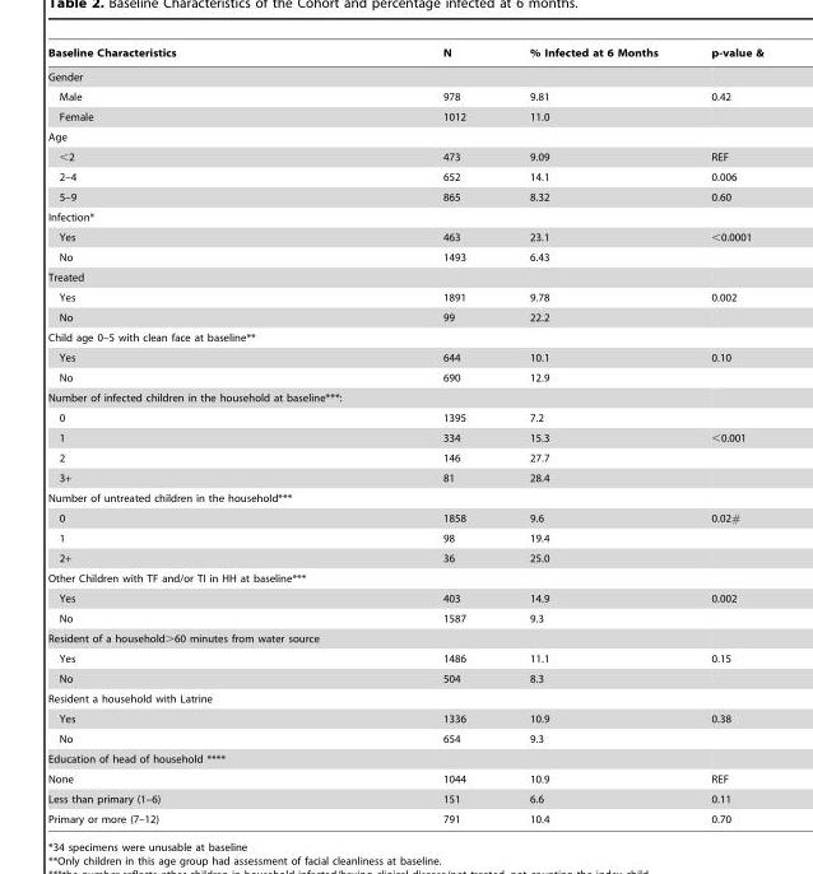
<table><thead><tr><td>Baseline Characteristics</td><td>N</td><td>% Infected at 6 Months</td><td>p-value &amp;</td></tr></thead><tbody><tr><td colspan="4">Gender</td></tr><tr><td>Male</td><td>978</td><td>9.81</td><td>0.42</td></tr><tr><td>Female</td><td>1012</td><td>11.0</td><td></td></tr><tr><td colspan="4">Age</td></tr><tr><td>&lt;2</td><td>473</td><td>9.09</td><td>REF</td></tr><tr><td>2–4</td><td>652</td><td>14.1</td><td>0.006</td></tr><tr><td>5–9</td><td>865</td><td>8.32</td><td>0.60</td></tr><tr><td colspan="4">Infection*</td></tr><tr><td>Yes</td><td>463</td><td>23.1</td><td>&lt;0.0001</td></tr><tr><td>No</td><td>1493</td><td>6.43</td><td></td></tr><tr><td colspan="4">Treated</td></tr><tr><td>Yes</td><td>1891</td><td>9.78</td><td>0.002</td></tr><tr><td>No</td><td>99</td><td>22.2</td><td></td></tr><tr><td colspan="4">Child age 0–5 with clean face at baseline**</td></tr><tr><td>Yes</td><td>644</td><td>10.1</td><td>0.10</td></tr><tr><td>No</td><td>690</td><td>12.9</td><td></td></tr><tr><td colspan="4">Number of infected children in the household at baseline***:</td></tr><tr><td>0</td><td>1395</td><td>7.2</td><td></td></tr><tr><td>1</td><td>334</td><td>15.3</td><td>&lt;0.001</td></tr><tr><td>2</td><td>146</td><td>27.7</td><td></td></tr><tr><td>3+</td><td>81</td><td>28.4</td><td></td></tr><tr><td colspan="4">Number of untreated children in the household***</td></tr><tr><td>0</td><td>1858</td><td>9.6</td><td>0.02#</td></tr><tr><td>1</td><td>98</td><td>19.4</td><td></td></tr><tr><td>2+</td><td>36</td><td>25.0</td><td></td></tr><tr><td colspan="4">Other Children with TF and/or TI in HH at baseline***</td></tr><tr><td>Yes</td><td>403</td><td>14.9</td><td>0.002</td></tr><tr><td>No</td><td>1587</td><td>9.3</td><td></td></tr><tr><td colspan="4">Resident of a household&gt;60 minutes from water source</td></tr><tr><td>Yes</td><td>1486</td><td>11.1</td><td>0.15</td></tr><tr><td>No</td><td>504</td><td>8.3</td><td></td></tr><tr><td colspan="4">Resident a household with Latrine</td></tr><tr><td>Yes</td><td>1336</td><td>10.9</td><td>0.38</td></tr><tr><td>No</td><td>654</td><td>9.3</td><td></td></tr><tr><td colspan="4">Education of head of household ****</td></tr><tr><td>None</td><td>1044</td><td>10.9</td><td>REF</td></tr><tr><td>Less than primary (1–6)</td><td>151</td><td>6.6</td><td>0.11</td></tr><tr><td>Primary or more (7–12)</td><td>791</td><td>10.4</td><td>0.70</td></tr></tbody></table>